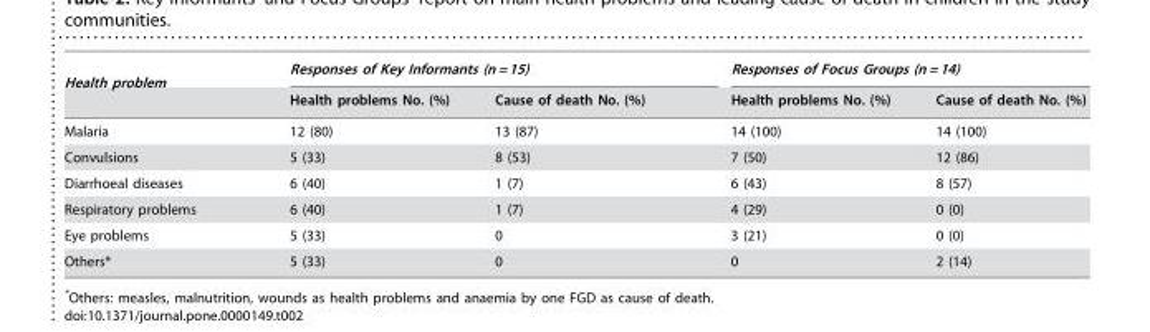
<table><thead><tr><td rowspan="2">Health problem</td><td colspan="2">Responses of Key Informants (n = 15)</td><td colspan="2">Responses of Focus Groups (n = 14)</td></tr><tr><td>Health problems No. (%)</td><td>Cause of death No. (%)</td><td>Health problems No. (%)</td><td>Cause of death No. (%)</td></tr></thead><tbody><tr><td>Malaria</td><td>12 (80)</td><td>13 (87)</td><td>14 (100)</td><td>14 (100)</td></tr><tr><td>Convulsions</td><td>5 (33)</td><td>8 (53)</td><td>7 (50)</td><td>12 (86)</td></tr><tr><td>Diarrhoeal diseases</td><td>6 (40)</td><td>1 (7)</td><td>6 (43)</td><td>8 (57)</td></tr><tr><td>Respiratory problems</td><td>6 (40)</td><td>1 (7)</td><td>4 (29)</td><td>0 (0)</td></tr><tr><td>Eye problems</td><td>5 (33)</td><td>0</td><td>3 (21)</td><td>0 (0)</td></tr><tr><td>Others*</td><td>5 (33)</td><td>0</td><td>0</td><td>2 (14)</td></tr></tbody></table>